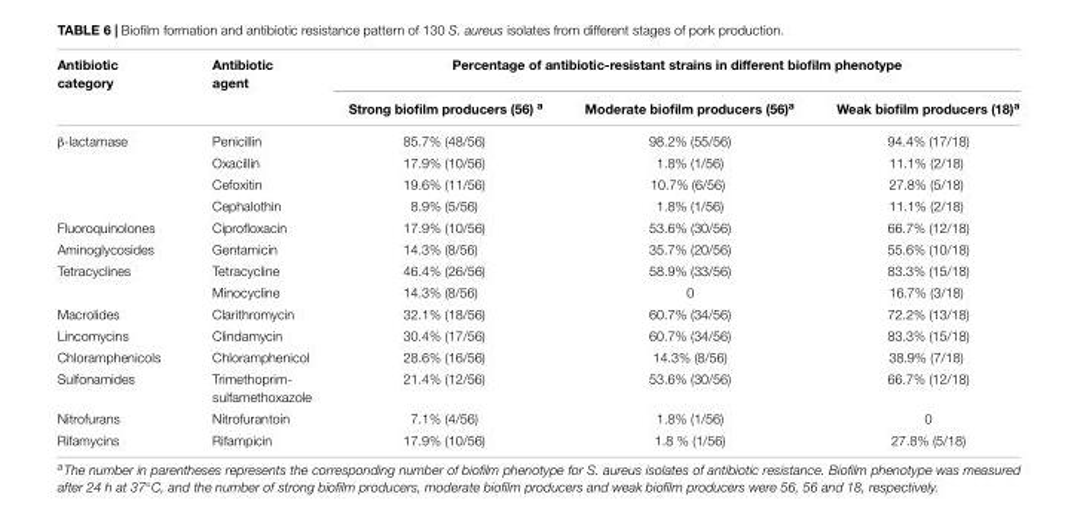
<table><thead><tr><td rowspan="2">Antibiotic category</td><td rowspan="2">Antibiotic agent</td><td colspan="3">Percentage of antibiotic-resistant strains in different biofilm phenotype</td></tr><tr><td>Strong biofilm producers (56) <sup>a</sup></td><td>Moderate biofilm producers (56)<sup>a</sup></td><td>Weak biofilm producers (18)<sup>a</sup></td></tr></thead><tbody><tr><td rowspan="4">β-lactamase</td><td>Penicillin</td><td>85.7% (48/56)</td><td>98.2% (55/56)</td><td>94.4% (17/18)</td></tr><tr><td>Oxacillin</td><td>17.9% (10/56)</td><td>1.8% (1/56)</td><td>11.1% (2/18)</td></tr><tr><td>Cefoxitin</td><td>19.6% (11/56)</td><td>10.7% (6/56)</td><td>27.8% (5/18)</td></tr><tr><td>Cephalothin</td><td>8.9% (5/56)</td><td>1.8% (1/56)</td><td>11.1% (2/18)</td></tr><tr><td>Fluoroquinolones</td><td>Ciprofloxacin</td><td>17.9% (10/56)</td><td>53.6% (30/56)</td><td>66.7% (12/18)</td></tr><tr><td>Aminoglycosides</td><td>Gentamicin</td><td>14.3% (8/56)</td><td>35.7% (20/56)</td><td>55.6% (10/18)</td></tr><tr><td rowspan="2">Tetracyclines</td><td>Tetracycline</td><td>46.4% (26/56)</td><td>58.9% (33/56)</td><td>83.3% (15/18)</td></tr><tr><td>Minocycline</td><td>14.3% (8/56)</td><td>0</td><td>16.7% (3/18)</td></tr><tr><td>Macrolides</td><td>Clarithromycin</td><td>32.1% (18/56)</td><td>60.7% (34/56)</td><td>72.2% (13/18)</td></tr><tr><td>Lincomycins</td><td>Clindamycin</td><td>30.4% (17/56)</td><td>60.7% (34/56)</td><td>83.3% (15/18)</td></tr><tr><td>Chloramphenicols</td><td>Chloramphenicol</td><td>28.6% (16/56)</td><td>14.3% (8/56)</td><td>38.9% (7/18)</td></tr><tr><td>Sulfonamides</td><td>Trimethoprim- sulfamethoxazole</td><td>21.4% (12/56)</td><td>53.6% (30/56)</td><td>66.7% (12/18)</td></tr><tr><td>Nitrofurans</td><td>Nitrofurantoin</td><td>7.1% (4/56)</td><td>1.8% (1/56)</td><td>0</td></tr><tr><td>Rifamycins</td><td>Rifampicin</td><td>17.9% (10/56)</td><td>1.8 % (1/56)</td><td>27.8% (5/18)</td></tr></tbody></table>